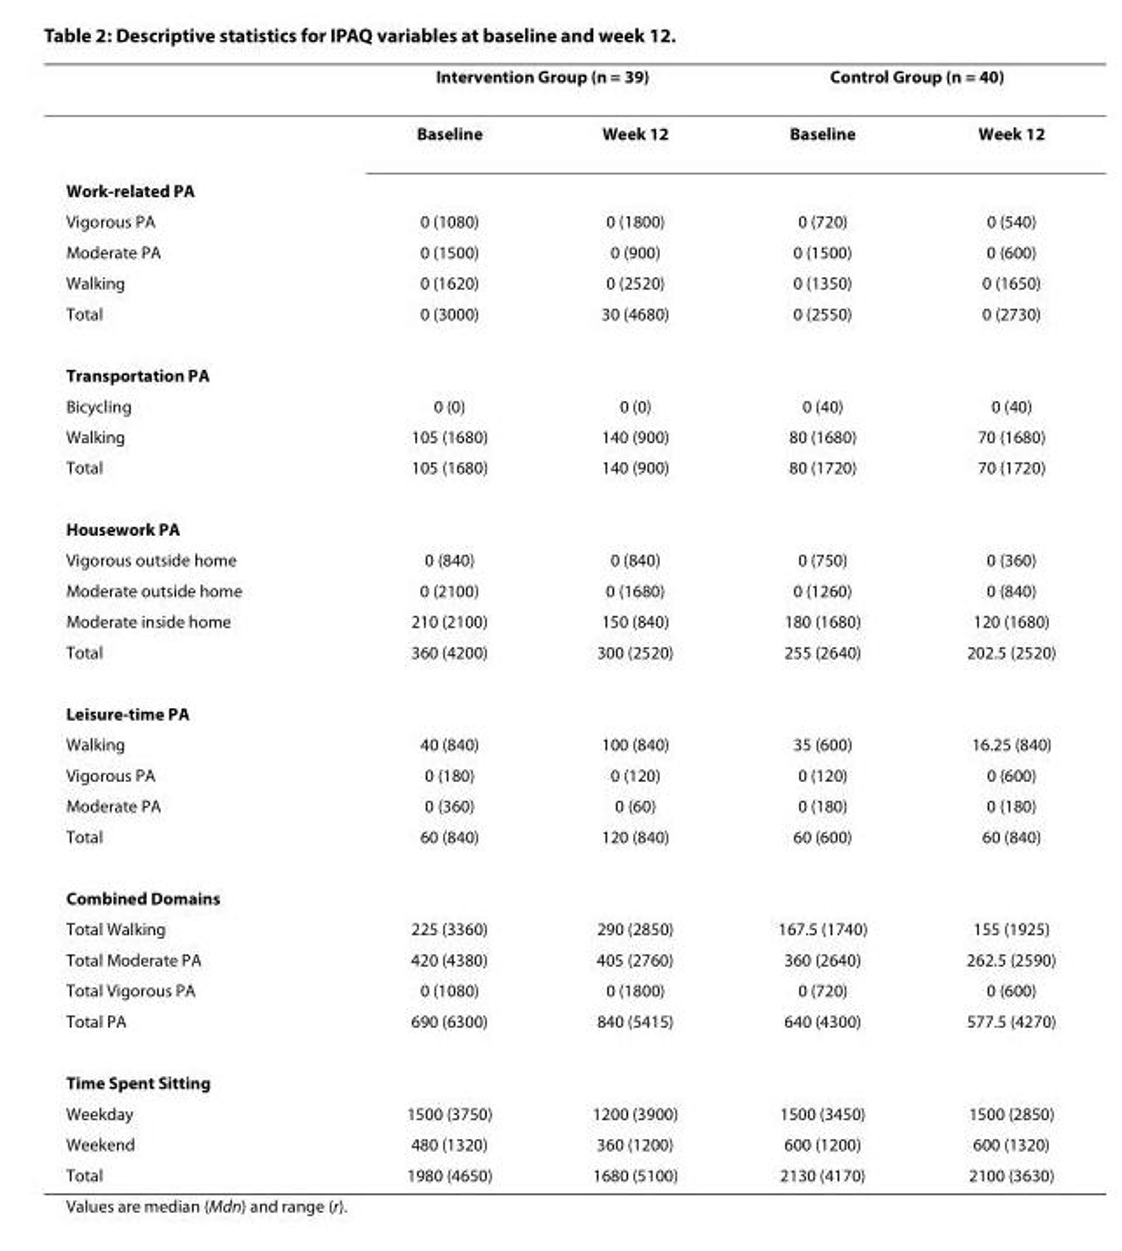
<table><thead><tr><td rowspan="2"></td><td colspan="2">Intervention Group (n = 39)</td><td colspan="2">Control Group (n = 40)</td></tr><tr><td>Baseline</td><td>Week 12</td><td>Baseline</td><td>Week 12</td></tr></thead><tbody><tr><td colspan="5">Work-related PA</td></tr><tr><td>Vigorous PA</td><td>0 (1080)</td><td>0 (1800)</td><td>0 (720)</td><td>0 (540)</td></tr><tr><td>Moderate PA</td><td>0 (1500)</td><td>0 (900)</td><td>0 (1500)</td><td>0 (600)</td></tr><tr><td>Walking</td><td>0 (1620)</td><td>0 (2520)</td><td>0 (1350)</td><td>0 (1650)</td></tr><tr><td>Total</td><td>0 (3000)</td><td>30 (4680)</td><td>0 (2550)</td><td>0 (2730)</td></tr><tr><td colspan="5">Transportation PA</td></tr><tr><td>Bicycling</td><td>0 (0)</td><td>0 (0)</td><td>0 (40)</td><td>0 (40)</td></tr><tr><td>Walking</td><td>105 (1680)</td><td>140 (900)</td><td>80 (1680)</td><td>70 (1680)</td></tr><tr><td>Total</td><td>105 (1680)</td><td>140 (900)</td><td>80 (1720)</td><td>70 (1720)</td></tr><tr><td colspan="5">Housework PA</td></tr><tr><td>Vigorous outside home</td><td>0 (840)</td><td>0 (840)</td><td>0 (750)</td><td>0 (360)</td></tr><tr><td>Moderate outside home</td><td>0 (2100)</td><td>0 (1680)</td><td>0 (1260)</td><td>0 (840)</td></tr><tr><td>Moderate inside home</td><td>210 (2100)</td><td>150 (840)</td><td>180 (1680)</td><td>120 (1680)</td></tr><tr><td>Total</td><td>360 (4200)</td><td>300 (2520)</td><td>255 (2640)</td><td>202.5 (2520)</td></tr><tr><td colspan="5">Leisure-time PA</td></tr><tr><td>Walking</td><td>40 (840)</td><td>100 (840)</td><td>35 (600)</td><td>16.25 (840)</td></tr><tr><td>Vigorous PA</td><td>0 (180)</td><td>0 (120)</td><td>0 (120)</td><td>0 (600)</td></tr><tr><td>Moderate PA</td><td>0 (360)</td><td>0 (60)</td><td>0 (180)</td><td>0 (180)</td></tr><tr><td>Total</td><td>60 (840)</td><td>120 (840)</td><td>60 (600)</td><td>60 (840)</td></tr><tr><td colspan="5">Combined Domains</td></tr><tr><td>Total Walking</td><td>225 (3360)</td><td>290 (2850)</td><td>167.5 (1740)</td><td>155 (1925)</td></tr><tr><td>Total Moderate PA</td><td>420 (4380)</td><td>405 (2760)</td><td>360 (2640)</td><td>262.5 (2590)</td></tr><tr><td>Total Vigorous PA</td><td>0 (1080)</td><td>0 (1800)</td><td>0 (720)</td><td>0 (600)</td></tr><tr><td>Total PA</td><td>690 (6300)</td><td>840 (5415)</td><td>640 (4300)</td><td>577.5 (4270)</td></tr><tr><td colspan="5">Time Spent Sitting</td></tr><tr><td>Weekday</td><td>1500 (3750)</td><td>1200 (3900)</td><td>1500 (3450)</td><td>1500 (2850)</td></tr><tr><td>Weekend</td><td>480 (1320)</td><td>360 (1200)</td><td>600 (1200)</td><td>600 (1320)</td></tr><tr><td>Total</td><td>1980 (4650)</td><td>1680 (5100)</td><td>2130 (4170)</td><td>2100 (3630)</td></tr></tbody></table>